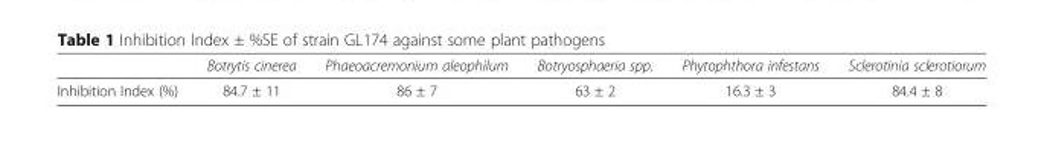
<table><thead><tr><td></td><td>Botrytis cinerea</td><td>Phaeoacremonium aleophilum</td><td>Botryosphaeria spp.</td><td>Phytophthora infestans</td><td>Sclerotinia sclerotiorum</td></tr></thead><tbody><tr><td>Inhibition Index (%)</td><td>84.7 ± 11</td><td>86 ± 7</td><td>63 ± 2</td><td>16.3 ± 3</td><td>84.4 ± 8</td></tr></tbody></table>